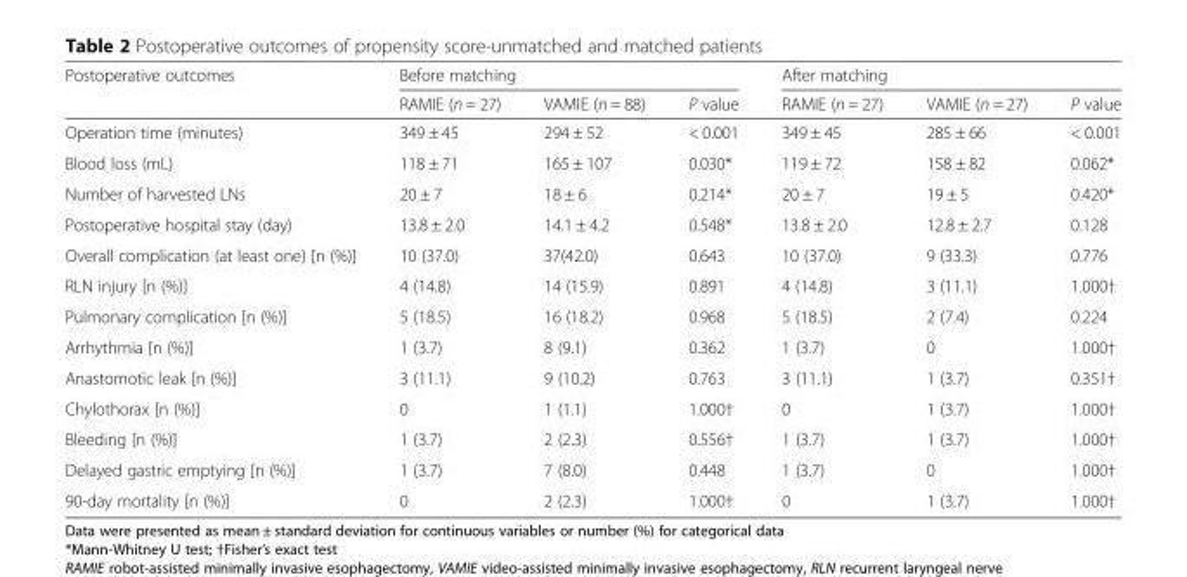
<table><thead><tr><td rowspan="2">Postoperative outcomes</td><td colspan="3">Before matching</td><td colspan="3">After matching</td></tr><tr><td>RAMIE (n = 27)</td><td>VAMIE (n = 88)</td><td>P value</td><td>RAMIE (n = 27)</td><td>VAMIE (n = 27)</td><td>P value</td></tr></thead><tbody><tr><td>Operation time (minutes)</td><td>349 ± 45</td><td>294 ± 52</td><td>&lt; 0.001</td><td>349 ± 45</td><td>285 ± 66</td><td>&lt; 0.001</td></tr><tr><td>Blood loss (mL)</td><td>118 ± 71</td><td>165 ± 107</td><td>0.030*</td><td>119 ± 72</td><td>158 ± 82</td><td>0.062*</td></tr><tr><td>Number of harvested LNs</td><td>20 ± 7</td><td>18 ± 6</td><td>0.214*</td><td>20 ± 7</td><td>19 ± 5</td><td>0.420*</td></tr><tr><td>Postoperative hospital stay (day)</td><td>13.8 ± 2.0</td><td>14.1 ± 4.2</td><td>0.548*</td><td>13.8 ± 2.0</td><td>12.8 ± 2.7</td><td>0.128</td></tr><tr><td>Overall complication (at least one) [n (%)]</td><td>10 (37.0)</td><td>37(42.0)</td><td>0.643</td><td>10 (37.0)</td><td>9 (33.3)</td><td>0.776</td></tr><tr><td>RLN injury [n (%)]</td><td>4 (14.8)</td><td>14 (15.9)</td><td>0.891</td><td>4 (14.8)</td><td>3 (11.1)</td><td>1.000†</td></tr><tr><td>Pulmonary complication [n (%)]</td><td>5 (18.5)</td><td>16 (18.2)</td><td>0.968</td><td>5 (18.5)</td><td>2 (7.4)</td><td>0.224</td></tr><tr><td>Arrhythmia [n (%)]</td><td>1 (3.7)</td><td>8 (9.1)</td><td>0.362</td><td>1 (3.7)</td><td>0</td><td>1.000†</td></tr><tr><td>Anastomotic leak [n (%)]</td><td>3 (11.1)</td><td>9 (10.2)</td><td>0.763</td><td>3 (11.1)</td><td>1 (3.7)</td><td>0.351†</td></tr><tr><td>Chylothorax [n (%)]</td><td>0</td><td>1 (1.1)</td><td>1.000†</td><td>0</td><td>1 (3.7)</td><td>1.000†</td></tr><tr><td>Bleeding [n (%)]</td><td>1 (3.7)</td><td>2 (2.3)</td><td>0.556†</td><td>1 (3.7)</td><td>1 (3.7)</td><td>1.000†</td></tr><tr><td>Delayed gastric emptying [n (%)]</td><td>1 (3.7)</td><td>7 (8.0)</td><td>0.448</td><td>1 (3.7)</td><td>0</td><td>1.000†</td></tr><tr><td>90-day mortality [n (%)]</td><td>0</td><td>2 (2.3)</td><td>1.000†</td><td>0</td><td>1 (3.7)</td><td>1.000†</td></tr></tbody></table>